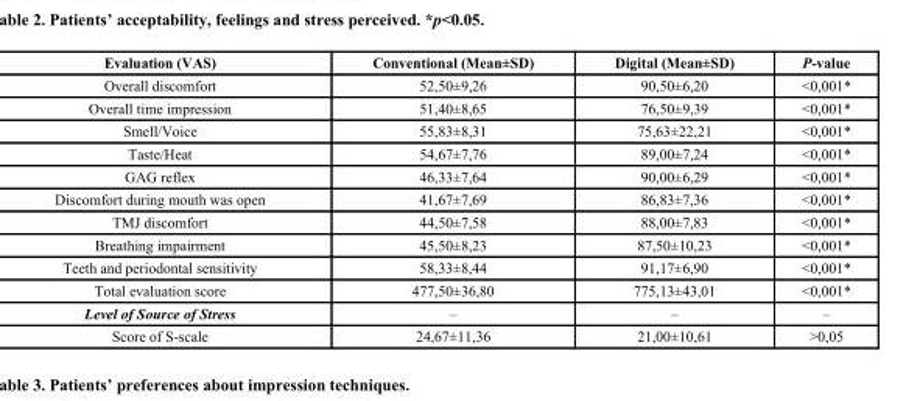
<table><thead><tr><td>Evaluation (VAS)</td><td>Conventional (Mean±SD)</td><td>Digital (Mean±SD)</td><td>P-value</td></tr></thead><tbody><tr><td>Overall discomfort</td><td>52,50±9,26</td><td>90,50±6,20</td><td>&lt;0,001*</td></tr><tr><td>Overall time impression</td><td>51,40±8,65</td><td>76,50±9,39</td><td>&lt;0,001*</td></tr><tr><td>Smell/Voice</td><td>55,83±8,31</td><td>75,63±22,21</td><td>&lt;0,001*</td></tr><tr><td>Taste/Heat</td><td>54,67±7,76</td><td>89,00±7,24</td><td>&lt;0,001*</td></tr><tr><td>GAG reflex</td><td>46,33±7,64</td><td>90,00±6,29</td><td>&lt;0,001*</td></tr><tr><td>Discomfort during mouth was open</td><td>41,67±7,69</td><td>86,83±7,36</td><td>&lt;0,001*</td></tr><tr><td>TMJ discomfort</td><td>44,50±7,58</td><td>88,00±7,83</td><td>&lt;0,001*</td></tr><tr><td>Breathing impairment</td><td>45,50±8,23</td><td>87,50±10,23</td><td>&lt;0,001*</td></tr><tr><td>Teeth and periodontal sensitivity</td><td>58,33±8,44</td><td>91,17±6,90</td><td>&lt;0,001*</td></tr><tr><td>Total evaluation score</td><td>477,50±36,80</td><td>775,13±43,01</td><td>&lt;0,001*</td></tr><tr><td>Level of Source of Stress</td><td>–</td><td>–</td><td>–</td></tr><tr><td>Score of S-scale</td><td>24,67±11,36</td><td>21,00±10,61</td><td>&gt;0,05</td></tr></tbody></table>